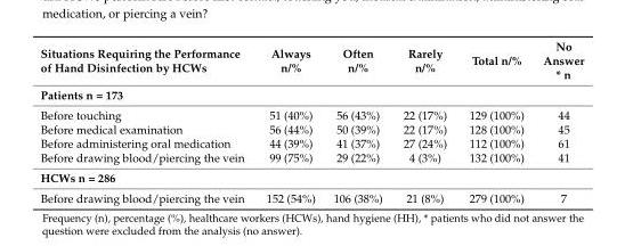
<table><thead><tr><td>Situations Requiring the Performance of Hand Disinfection by HCWs</td><td>Always n/%</td><td>Often n/%</td><td>Rarely n/%</td><td>Total n/%</td><td>No Answer * n</td></tr></thead><tbody><tr><td colspan="6">Patients n = 173</td></tr><tr><td>Before touching</td><td>51 (40%)</td><td>56 (43%)</td><td>22 (17%)</td><td>129 (100%)</td><td>44</td></tr><tr><td>Before medical examination</td><td>56 (44%)</td><td>50 (39%)</td><td>22 (17%)</td><td>128 (100%)</td><td>45</td></tr><tr><td>Before administering oral medication</td><td>44 (39%)</td><td>41 (37%)</td><td>27 (24%)</td><td>112 (100%)</td><td>61</td></tr><tr><td>Before drawing blood/piercing the vein</td><td>99 (75%)</td><td>29 (22%)</td><td>4 (3%)</td><td>132 (100%)</td><td>41</td></tr><tr><td colspan="6">HCWs n = 286</td></tr><tr><td>Before drawing blood/piercing the vein</td><td>152 (54%)</td><td>106 (38%)</td><td>21 (8%)</td><td>279 (100%)</td><td>7</td></tr></tbody></table>